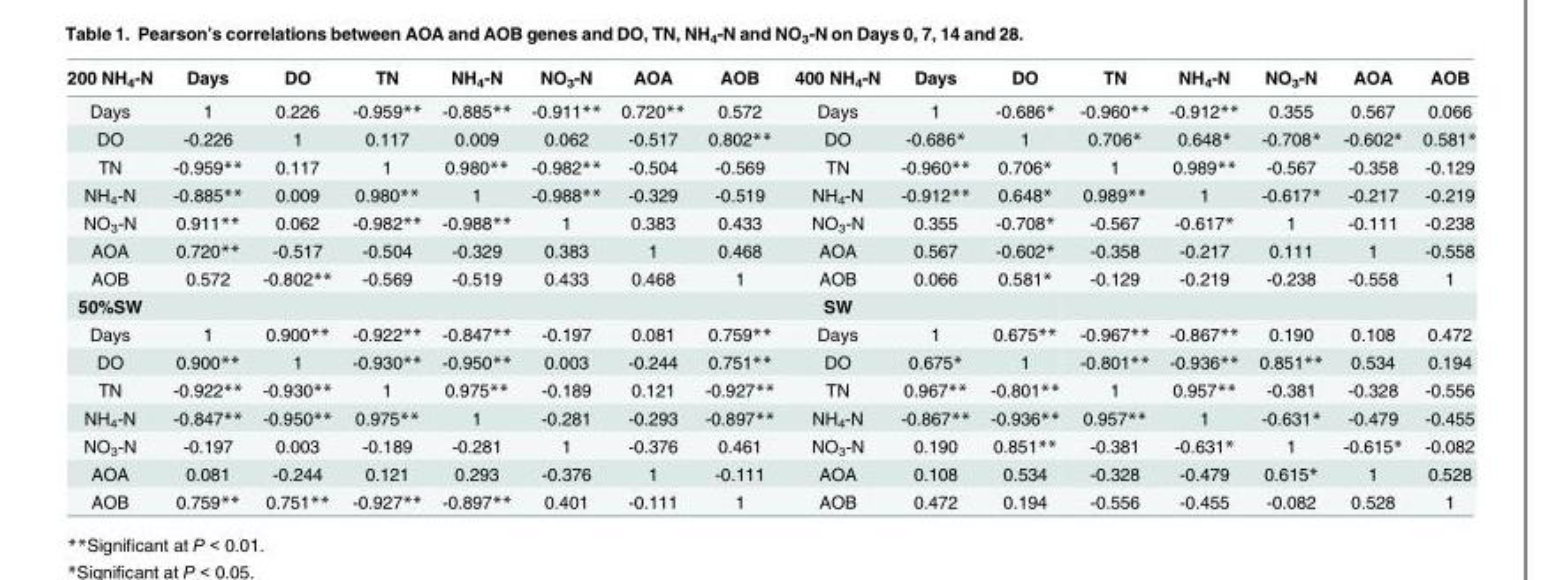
<table><thead><tr><td>200 NH<sub>4</sub>-N</td><td>Days</td><td>DO</td><td>TN</td><td>NH<sub>4</sub>-N</td><td>NO<sub>3</sub>-N</td><td>AOA</td><td>AOB</td><td>400 NH<sub>4</sub>-N</td><td>Days</td><td>DO</td><td>TN</td><td>NH<sub>4</sub>-N</td><td>NO<sub>3</sub>-N</td><td>AOA</td><td>AOB</td></tr></thead><tbody><tr><td>Days</td><td>1</td><td>0.226</td><td>-0.959**</td><td>-0.885**</td><td>-0.911**</td><td>0.720**</td><td>0.572</td><td>Days</td><td>1</td><td>-0.686*</td><td>-0.960**</td><td>-0.912**</td><td>0.355</td><td>0.567</td><td>0.066</td></tr><tr><td>DO</td><td>-0.226</td><td>1</td><td>0.117</td><td>0.009</td><td>0.062</td><td>-0.517</td><td>0.802**</td><td>DO</td><td>-0.686*</td><td>1</td><td>0.706*</td><td>0.648*</td><td>-0.708*</td><td>-0.602*</td><td>0.581*</td></tr><tr><td>TN</td><td>-0.959**</td><td>0.117</td><td>1</td><td>0.980**</td><td>-0.982**</td><td>-0.504</td><td>-0.569</td><td>TN</td><td>-0.960**</td><td>0.706*</td><td>1</td><td>0.989**</td><td>-0.567</td><td>-0.358</td><td>-0.129</td></tr><tr><td>NH<sub>4</sub>-N</td><td>-0.885**</td><td>0.009</td><td>0.980**</td><td>1</td><td>-0.988**</td><td>-0.329</td><td>-0.519</td><td>NH<sub>4</sub>-N</td><td>-0.912**</td><td>0.648*</td><td>0.989**</td><td>1</td><td>-0.617*</td><td>-0.217</td><td>-0.219</td></tr><tr><td>NO<sub>3</sub>-N</td><td>0.911**</td><td>0.062</td><td>-0.982**</td><td>-0.988**</td><td>1</td><td>0.383</td><td>0.433</td><td>NO<sub>3</sub>-N</td><td>0.355</td><td>-0.708*</td><td>-0.567</td><td>-0.617*</td><td>1</td><td>-0.111</td><td>-0.238</td></tr><tr><td>AOA</td><td>0.720**</td><td>-0.517</td><td>-0.504</td><td>-0.329</td><td>0.383</td><td>1</td><td>0.468</td><td>AOA</td><td>0.567</td><td>-0.602*</td><td>-0.358</td><td>-0.217</td><td>0.111</td><td>1</td><td>-0.558</td></tr><tr><td>AOB</td><td>0.572</td><td>-0.802**</td><td>-0.569</td><td>-0.519</td><td>0.433</td><td>0.468</td><td>1</td><td>AOB</td><td>0.066</td><td>0.581*</td><td>-0.129</td><td>-0.219</td><td>-0.238</td><td>-0.558</td><td>1</td></tr><tr><td>50%SW</td><td></td><td></td><td></td><td></td><td></td><td></td><td></td><td>SW</td><td></td><td></td><td></td><td></td><td></td><td></td><td></td></tr><tr><td>Days</td><td>1</td><td>0.900**</td><td>-0.922**</td><td>-0.847**</td><td>-0.197</td><td>0.081</td><td>0.759**</td><td>Days</td><td>1</td><td>0.675**</td><td>-0.967**</td><td>-0.867**</td><td>0.190</td><td>0.108</td><td>0.472</td></tr><tr><td>DO</td><td>0.900**</td><td>1</td><td>-0.930**</td><td>-0.950**</td><td>0.003</td><td>-0.244</td><td>0.751**</td><td>DO</td><td>0.675*</td><td>1</td><td>-0.801**</td><td>-0.936**</td><td>0.851**</td><td>0.534</td><td>0.194</td></tr><tr><td>TN</td><td>-0.922**</td><td>-0.930**</td><td>1</td><td>0.975**</td><td>-0.189</td><td>0.121</td><td>-0.927**</td><td>TN</td><td>0.967**</td><td>-0.801**</td><td>1</td><td>0.957**</td><td>-0.381</td><td>-0.328</td><td>-0.556</td></tr><tr><td>NH<sub>4</sub>-N</td><td>-0.847**</td><td>-0.950**</td><td>0.975**</td><td>1</td><td>-0.281</td><td>-0.293</td><td>-0.897**</td><td>NH<sub>4</sub>-N</td><td>-0.867**</td><td>-0.936**</td><td>0.957**</td><td>1</td><td>-0.631*</td><td>-0.479</td><td>-0.455</td></tr><tr><td>NO<sub>3</sub>-N</td><td>-0.197</td><td>0.003</td><td>-0.189</td><td>-0.281</td><td>1</td><td>-0.376</td><td>0.461</td><td>NO<sub>3</sub>-N</td><td>0.190</td><td>0.851**</td><td>-0.381</td><td>-0.631*</td><td>1</td><td>-0.615*</td><td>-0.082</td></tr><tr><td>AOA</td><td>0.081</td><td>-0.244</td><td>0.121</td><td>0.293</td><td>-0.376</td><td>1</td><td>-0.111</td><td>AOA</td><td>0.108</td><td>0.534</td><td>-0.328</td><td>-0.479</td><td>0.615*</td><td>1</td><td>0.528</td></tr><tr><td>AOB</td><td>0.759**</td><td>0.751**</td><td>-0.927**</td><td>-0.897**</td><td>0.401</td><td>-0.111</td><td>1</td><td>AOB</td><td>0.472</td><td>0.194</td><td>-0.556</td><td>-0.455</td><td>-0.082</td><td>0.528</td><td>1</td></tr></tbody></table>